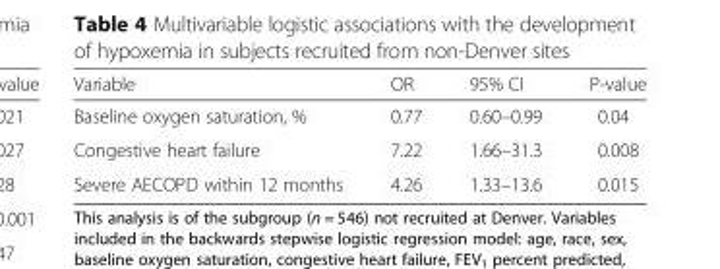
<table><thead><tr><td>Variable</td><td>OR</td><td>95% CI</td><td>P-value</td></tr></thead><tbody><tr><td>Baseline oxygen saturation, %</td><td>0.77</td><td>0.60–0.99</td><td>0.04</td></tr><tr><td>Congestive heart failure</td><td>7.22</td><td>1.66–31.3</td><td>0.008</td></tr><tr><td>Severe AECOPD within 12 months</td><td>4.26</td><td>1.33–13.6</td><td>0.015</td></tr></tbody></table>